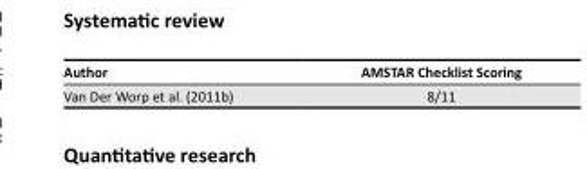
<table><thead><tr><td>Author</td><td>AMSTAR Checklist Scoring</td></tr></thead><tbody><tr><td>Van Der Worp et al. (2011b)</td><td>8/11</td></tr></tbody></table>